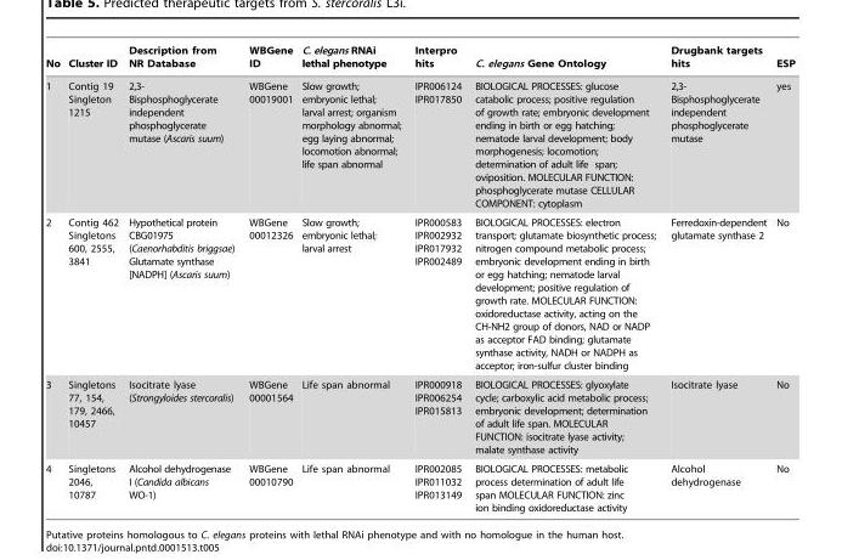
<table><thead><tr><td>No</td><td>Cluster ID</td><td>Description from NR Database</td><td>WBGene ID</td><td>C. elegans RNAi lethal phenotype</td><td>Interpro hits</td><td>C. elegans Gene Ontology</td><td>Drugbank targets hits</td><td>ESP</td></tr></thead><tbody><tr><td>1</td><td>Contig 19 Singleton 1215</td><td>2,3- Bisphosphoglycerate independent phosphoglycerate mutase (Ascaris suum)</td><td>WBGene 00019001</td><td>Slow growth; embryonic lethal; larval arrest; organism morphology abnormal; egg laying abnormal; locomotion abnormal; life span abnormal</td><td>IPR006124 IPR017850</td><td>BIOLOGICAL PROCESSES: glucose catabolic process; positive regulation of growth rate; embryonic development ending in birth or egg hatching; nematode larval development; body morphogenesis; locomotion; determination of adult life span; oviposition. MOLECULAR FUNCTION: phosphoglycerate mutase CELLULAR COMPONENT: cytoplasm</td><td>2,3- Bisphosphoglycerate independent phosphoglycerate mutase</td><td>yes</td></tr><tr><td>2</td><td>Contig 462 Singletons 600, 2555, 3841</td><td>Hypothetical protein CBG01975 (Caenorhabditis briggsae) Glutamate synthase [NADPH] (Ascaris suum)</td><td>WBGene 00012326</td><td>Slow growth; embryonic lethal; larval arrest</td><td>IPR000583 IPR002932 IPR017932 IPR002489</td><td>BIOLOGICAL PROCESSES: electron transport; glutamate biosynthetic process; nitrogen compound metabolic process; embryonic development ending in birth or egg hatching; nematode larval development; positive regulation of growth rate. MOLECULAR FUNCTION: oxidoreductase activity, acting on the CH-NH2 group of donors, NAD or NADP as acceptor FAD binding; glutamate synthase activity, NADH or NADPH as acceptor; iron-sulfur cluster binding</td><td>Ferredoxin-dependent glutamate synthase 2</td><td>No</td></tr><tr><td>3</td><td>Singletons 77, 154, 179, 2466, 10457</td><td>Isocitrate lyase (Strongyloides stercoralis)</td><td>WBGene 00001564</td><td>Life span abnormal</td><td>IPR000918 IPR006254 IPR015813</td><td>BIOLOGICAL PROCESSES: glyoxylate cycle; carboxylic acid metabolic process; embryonic development; determination of adult life span. MOLECULAR FUNCTION: isocitrate lyase activity; malate synthase activity</td><td>Isocitrate lyase</td><td>No</td></tr><tr><td>4</td><td>Singletons 2046, 10787</td><td>Alcohol dehydrogenase I (Candida albicans WO-1)</td><td>WBGene 00010790</td><td>Life span abnormal</td><td>IPR002085 IPR011032 IPR013149</td><td>BIOLOGICAL PROCESSES: metabolic process determination of adult life span MOLECULAR FUNCTION: zinc ion binding oxidoreductase activity</td><td>Alcohol dehydrogenase</td><td>No</td></tr></tbody></table>